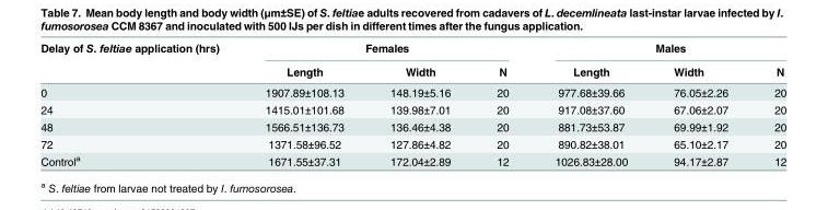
<table><thead><tr><td rowspan="2">Delay of S. feltiae application (hrs)</td><td colspan="3">Females</td><td colspan="3">Males</td></tr><tr><td>Length</td><td>Width</td><td>N</td><td>Length</td><td>Width</td><td>N</td></tr></thead><tbody><tr><td>0</td><td>1907.89±108.13</td><td>148.19±5.16</td><td>20</td><td>977.68±39.66</td><td>76.05±2.26</td><td>20</td></tr><tr><td>24</td><td>1415.01±101.68</td><td>139.98±7.01</td><td>20</td><td>917.08±37.60</td><td>67.06±2.07</td><td>20</td></tr><tr><td>48</td><td>1566.51±136.73</td><td>136.46±4.38</td><td>20</td><td>881.73±53.87</td><td>69.99±1.92</td><td>20</td></tr><tr><td>72</td><td>1371.58±96.52</td><td>127.86±4.82</td><td>20</td><td>890.82±38.01</td><td>65.10±2.17</td><td>20</td></tr><tr><td>Control<sup>a</sup></td><td>1671.55±37.31</td><td>172.04±2.89</td><td>12</td><td>1026.83±28.00</td><td>94.17±2.87</td><td>12</td></tr></tbody></table>